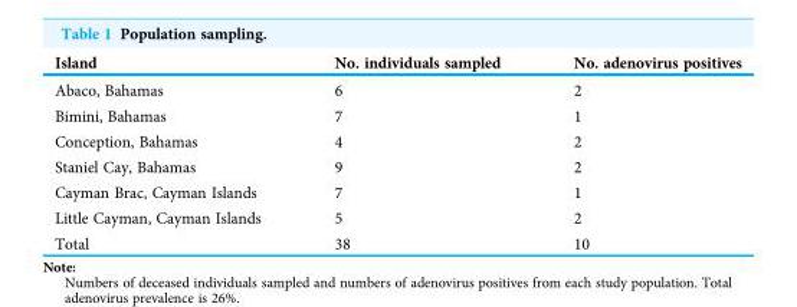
<table><thead><tr><td>Island</td><td>No. individuals sampled</td><td>No. adenovirus positives</td></tr></thead><tbody><tr><td>Abaco, Bahamas</td><td>6</td><td>2</td></tr><tr><td>Bimini, Bahamas</td><td>7</td><td>1</td></tr><tr><td>Conception, Bahamas</td><td>4</td><td>2</td></tr><tr><td>Staniel Cay, Bahamas</td><td>9</td><td>2</td></tr><tr><td>Cayman Brac, Cayman Islands</td><td>7</td><td>1</td></tr><tr><td>Little Cayman, Cayman Islands</td><td>5</td><td>2</td></tr><tr><td>Total</td><td>38</td><td>10</td></tr></tbody></table>